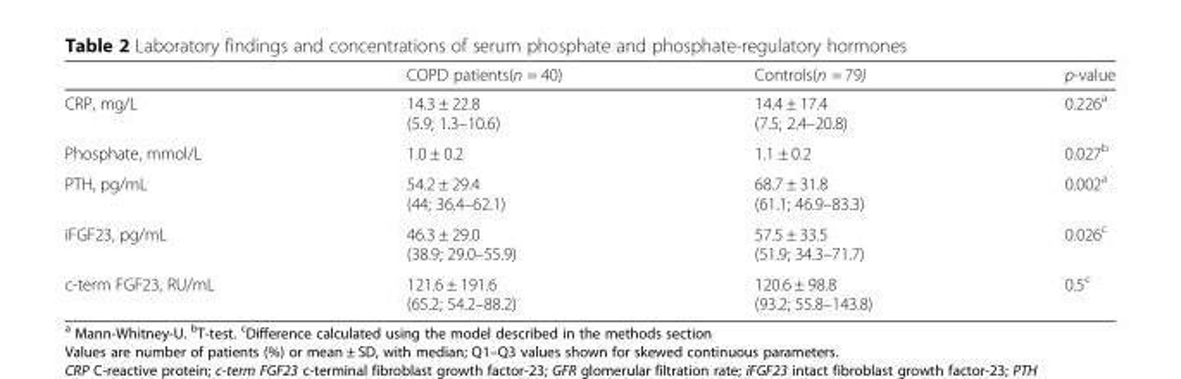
<table><thead><tr><td></td><td>COPD patients(n = 40)</td><td>Controls(n = 79)</td><td>p-value</td></tr></thead><tbody><tr><td>CRP, mg/L</td><td>14.3 ± 22.8 (5.9; 1.3–10.6)</td><td>14.4 ± 17.4 (7.5; 2.4–20.8)</td><td>0.226<sup>a</sup></td></tr><tr><td>Phosphate, mmol/L</td><td>1.0 ± 0.2</td><td>1.1 ± 0.2</td><td>0.027<sup>b</sup></td></tr><tr><td>PTH, pg/mL</td><td>54.2 ± 29.4 (44; 36.4–62.1)</td><td>68.7 ± 31.8 (61.1; 46.9–83.3)</td><td>0.002<sup>a</sup></td></tr><tr><td>iFGF23, pg/mL</td><td>46.3 ± 29.0 (38.9; 29.0–55.9)</td><td>57.5 ± 33.5 (51.9; 34.3–71.7)</td><td>0.026<sup>c</sup></td></tr><tr><td>c-term FGF23, RU/mL</td><td>121.6 ± 191.6 (65.2; 54.2–88.2)</td><td>120.6 ± 98.8 (93.2; 55.8–143.8)</td><td>0.5<sup>c</sup></td></tr></tbody></table>